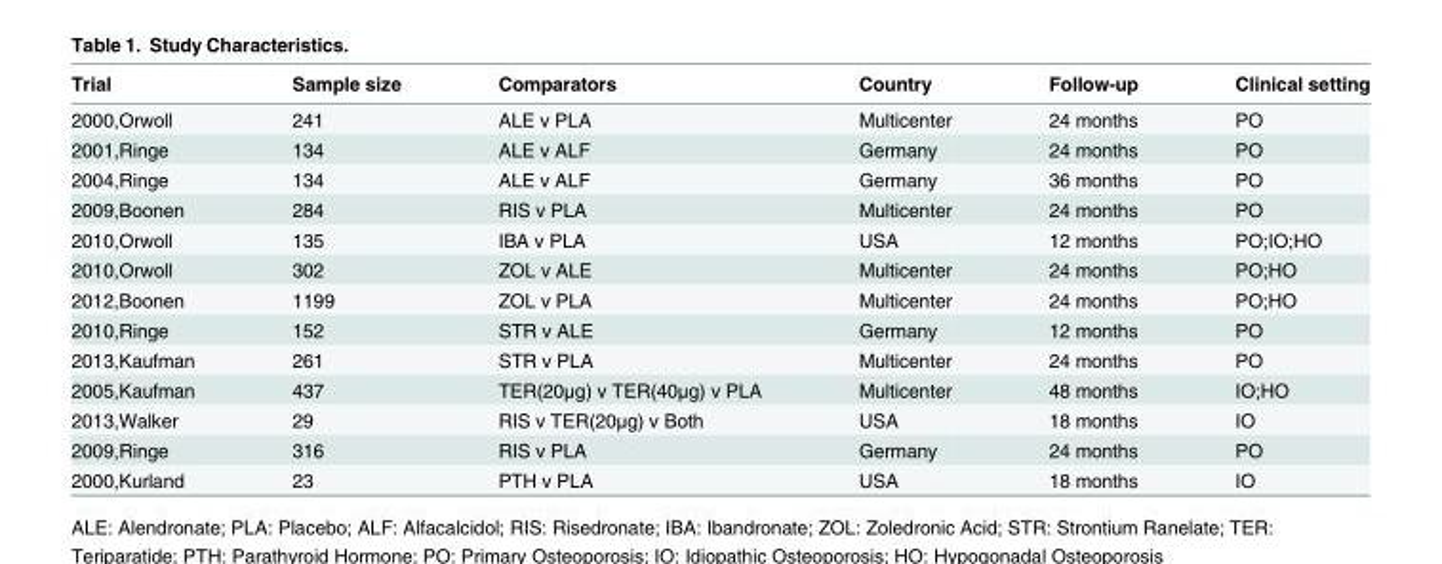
<table><thead><tr><td>Trial</td><td>Sample size</td><td>Comparators</td><td>Country</td><td>Follow-up</td><td>Clinical setting</td></tr></thead><tbody><tr><td>2000,Orwoll</td><td>241</td><td>ALE v PLA</td><td>Multicenter</td><td>24 months</td><td>PO</td></tr><tr><td>2001,Ringe</td><td>134</td><td>ALE v ALF</td><td>Germany</td><td>24 months</td><td>PO</td></tr><tr><td>2004,Ringe</td><td>134</td><td>ALE v ALF</td><td>Germany</td><td>36 months</td><td>PO</td></tr><tr><td>2009,Boonen</td><td>284</td><td>RIS v PLA</td><td>Multicenter</td><td>24 months</td><td>PO</td></tr><tr><td>2010,Orwoll</td><td>135</td><td>IBA v PLA</td><td>USA</td><td>12 months</td><td>PO;IO;HO</td></tr><tr><td>2010,Orwoll</td><td>302</td><td>ZOL v ALE</td><td>Multicenter</td><td>24 months</td><td>PO;HO</td></tr><tr><td>2012,Boonen</td><td>1199</td><td>ZOL v PLA</td><td>Multicenter</td><td>24 months</td><td>PO;HO</td></tr><tr><td>2010,Ringe</td><td>152</td><td>STR v ALE</td><td>Germany</td><td>12 months</td><td>PO</td></tr><tr><td>2013,Kaufman</td><td>261</td><td>STR v PLA</td><td>Multicenter</td><td>24 months</td><td>PO</td></tr><tr><td>2005,Kaufman</td><td>437</td><td>TER(20μg) v TER(40μg) v PLA</td><td>Multicenter</td><td>48 months</td><td>IO;HO</td></tr><tr><td>2013,Walker</td><td>29</td><td>RIS v TER(20μg) v Both</td><td>USA</td><td>18 months</td><td>IO</td></tr><tr><td>2009,Ringe</td><td>316</td><td>RIS v PLA</td><td>Germany</td><td>24 months</td><td>PO</td></tr><tr><td>2000,Kurland</td><td>23</td><td>PTH v PLA</td><td>USA</td><td>18 months</td><td>IO</td></tr></tbody></table>